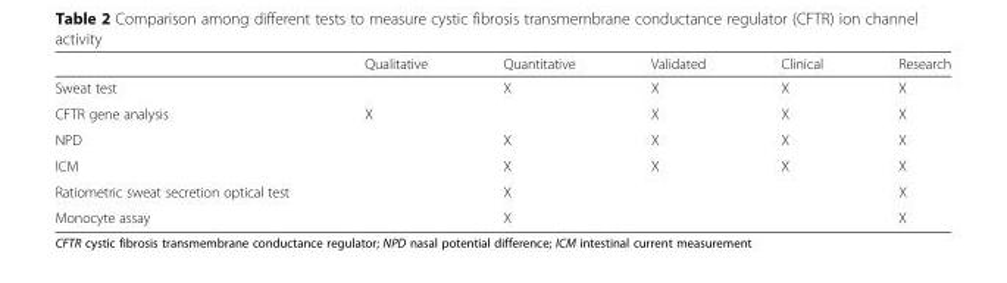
<table><thead><tr><td></td><td>Qualitative</td><td>Quantitative</td><td>Validated</td><td>Clinical</td><td>Research</td></tr></thead><tbody><tr><td>Sweat test</td><td></td><td>X</td><td>X</td><td>X</td><td>X</td></tr><tr><td>CFTR gene analysis</td><td>X</td><td></td><td>X</td><td>X</td><td>X</td></tr><tr><td>NPD</td><td></td><td>X</td><td>X</td><td>X</td><td>X</td></tr><tr><td>ICM</td><td></td><td>X</td><td>X</td><td>X</td><td>X</td></tr><tr><td>Ratiometric sweat secretion optical test</td><td></td><td>X</td><td></td><td></td><td>X</td></tr><tr><td>Monocyte assay</td><td></td><td>X</td><td></td><td></td><td>X</td></tr></tbody></table>